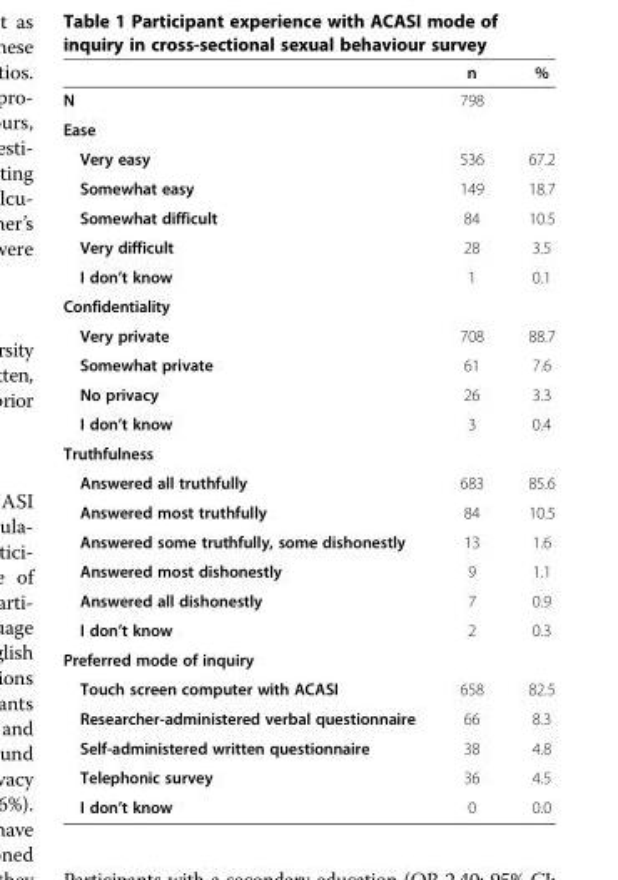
<table><thead><tr><td></td><td>n</td><td>%</td></tr></thead><tbody><tr><td>N</td><td>798</td><td></td></tr><tr><td colspan="3">Ease</td></tr><tr><td>Very easy</td><td>536</td><td>67.2</td></tr><tr><td>Somewhat easy</td><td>149</td><td>18.7</td></tr><tr><td>Somewhat difficult</td><td>84</td><td>10.5</td></tr><tr><td>Very difficult</td><td>28</td><td>3.5</td></tr><tr><td>I don’t know</td><td>1</td><td>0.1</td></tr><tr><td colspan="3">Confidentiality</td></tr><tr><td>Very private</td><td>708</td><td>88.7</td></tr><tr><td>Somewhat private</td><td>61</td><td>7.6</td></tr><tr><td>No privacy</td><td>26</td><td>3.3</td></tr><tr><td>I don’t know</td><td>3</td><td>0.4</td></tr><tr><td colspan="3">Truthfulness</td></tr><tr><td>Answered all truthfully</td><td>683</td><td>85.6</td></tr><tr><td>Answered most truthfully</td><td>84</td><td>10.5</td></tr><tr><td>Answered some truthfully, some dishonestly</td><td>13</td><td>1.6</td></tr><tr><td>Answered most dishonestly</td><td>9</td><td>1.1</td></tr><tr><td>Answered all dishonestly</td><td>7</td><td>0.9</td></tr><tr><td>I don’t know</td><td>2</td><td>0.3</td></tr><tr><td colspan="3">Preferred mode of inquiry</td></tr><tr><td>Touch screen computer with ACASI</td><td>658</td><td>82.5</td></tr><tr><td>Researcher-administered verbal questionnaire</td><td>66</td><td>8.3</td></tr><tr><td>Self-administered written questionnaire</td><td>38</td><td>4.8</td></tr><tr><td>Telephonic survey</td><td>36</td><td>4.5</td></tr><tr><td>I don’t know</td><td>0</td><td>0.0</td></tr></tbody></table>